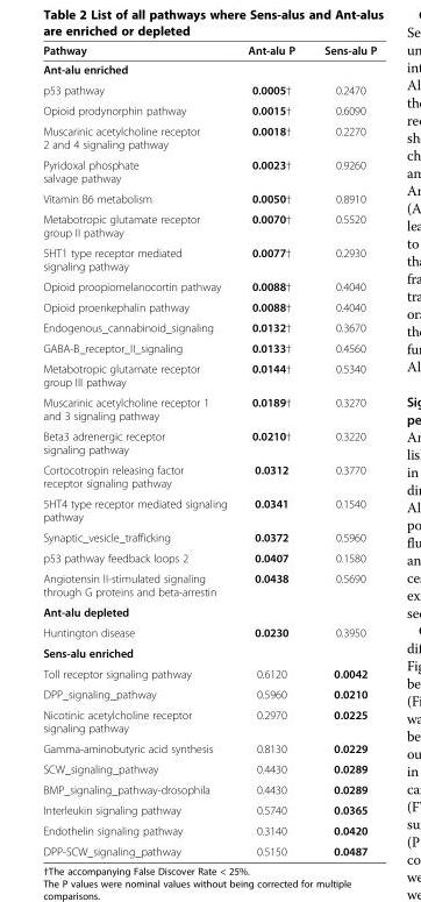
<table><thead><tr><td>Pathway</td><td>Ant-alu P</td><td>Sens-alu P</td></tr></thead><tbody><tr><td colspan="3">Ant-alu enriched</td></tr><tr><td>p53 pathway</td><td>0.0005†</td><td>0.2470</td></tr><tr><td>Opioid prodynorphin pathway</td><td>0.0015†</td><td>0.6090</td></tr><tr><td>Muscarinic acetylcholine receptor 2 and 4 signaling pathway</td><td>0.0018†</td><td>0.2270</td></tr><tr><td>Pyridoxal phosphate salvage pathway</td><td>0.0023†</td><td>0.9260</td></tr><tr><td>Vitamin B6 metabolism</td><td>0.0050†</td><td>0.8910</td></tr><tr><td>Metabotropic glutamate receptor group II pathway</td><td>0.0070†</td><td>0.5520</td></tr><tr><td>5HT1 type receptor mediated signaling pathway</td><td>0.0077†</td><td>0.2930</td></tr><tr><td>Opioid proopiomelanocortin pathway</td><td>0.0088†</td><td>0.4040</td></tr><tr><td>Opioid proenkephalin pathway</td><td>0.0088†</td><td>0.4040</td></tr><tr><td>Endogenous_cannabinoid_signaling</td><td>0.0132†</td><td>0.3670</td></tr><tr><td>GABA-B_receptor_II_signaling</td><td>0.0133†</td><td>0.4560</td></tr><tr><td>Metabotropic glutamate receptor group III pathway</td><td>0.0144†</td><td>0.5340</td></tr><tr><td>Muscarinic acetylcholine receptor 1 and 3 signaling pathway</td><td>0.0189†</td><td>0.3270</td></tr><tr><td>Beta3 adrenergic receptor signaling pathway</td><td>0.0210†</td><td>0.3220</td></tr><tr><td>Cortocotropin releasing factor receptor signaling pathway</td><td>0.0312</td><td>0.3770</td></tr><tr><td>5HT4 type receptor mediated signaling pathway</td><td>0.0341</td><td>0.1540</td></tr><tr><td>Synaptic_vesicle_trafficking</td><td>0.0372</td><td>0.5960</td></tr><tr><td>p53 pathway feedback loops 2</td><td>0.0407</td><td>0.1580</td></tr><tr><td>Angiotensin II-stimulated signaling through G proteins and beta-arrestin</td><td>0.0438</td><td>0.5690</td></tr><tr><td colspan="3">Ant-alu depleted</td></tr><tr><td>Huntington disease</td><td>0.0230</td><td>0.3950</td></tr><tr><td colspan="3">Sens-alu enriched</td></tr><tr><td>Toll receptor signaling pathway</td><td>0.6120</td><td>0.0042</td></tr><tr><td>DPP_signaling_pathway</td><td>0.5960</td><td>0.0210</td></tr><tr><td>Nicotinic acetylcholine receptor signaling pathway</td><td>0.2970</td><td>0.0225</td></tr><tr><td>Gamma-aminobutyric acid synthesis</td><td>0.8130</td><td>0.0229</td></tr><tr><td>SCW_signaling_pathway</td><td>0.4430</td><td>0.0289</td></tr><tr><td>BMP_signaling_pathway-drosophila</td><td>0.4430</td><td>0.0289</td></tr><tr><td>Interleukin signaling pathway</td><td>0.5740</td><td>0.0365</td></tr><tr><td>Endothelin signaling pathway</td><td>0.3140</td><td>0.0420</td></tr><tr><td>DPP-SCW_signaling_pathway</td><td>0.5150</td><td>0.0487</td></tr></tbody></table>